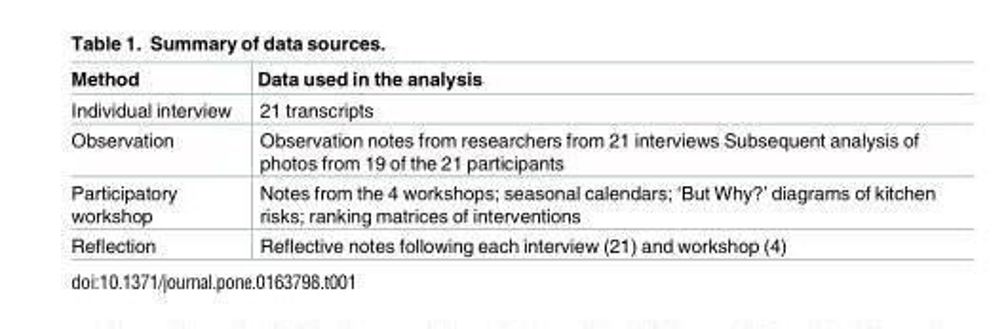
<table><thead><tr><td>Method</td><td>Data used in the analysis</td></tr></thead><tbody><tr><td>Individual interview</td><td>21 transcripts</td></tr><tr><td>Observation</td><td>Observation notes from researchers from 21 interviews Subsequent analysis of photos from 19 of the 21 participants</td></tr><tr><td>Participatory workshop</td><td>Notes from the 4 workshops; seasonal calendars; ‘But Why?’ diagrams of kitchen risks; ranking matrices of interventions</td></tr><tr><td>Reflection</td><td>Reflective notes following each interview (21) and workshop (4)</td></tr></tbody></table>